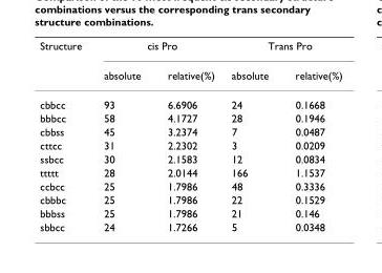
<table><thead><tr><td rowspan="2">Structure</td><td colspan="2">cis Pro</td><td colspan="2">Trans Pro</td></tr><tr><td>absolute</td><td>relative(%)</td><td>absolute</td><td>relative(%)</td></tr></thead><tbody><tr><td>cbbcc</td><td>93</td><td>6.6906</td><td>24</td><td>0.1668</td></tr><tr><td>bbbcc</td><td>58</td><td>4.1727</td><td>28</td><td>0.1946</td></tr><tr><td>cbbss</td><td>45</td><td>3.2374</td><td>7</td><td>0.0487</td></tr><tr><td>cttcc</td><td>31</td><td>2.2302</td><td>3</td><td>0.0209</td></tr><tr><td>ssbcc</td><td>30</td><td>2.1583</td><td>12</td><td>0.0834</td></tr><tr><td>ttttt</td><td>28</td><td>2.0144</td><td>166</td><td>1.1537</td></tr><tr><td>ccbcc</td><td>25</td><td>1.7986</td><td>48</td><td>0.3336</td></tr><tr><td>cbbbc</td><td>25</td><td>1.7986</td><td>22</td><td>0.1529</td></tr><tr><td>bbbss</td><td>25</td><td>1.7986</td><td>21</td><td>0.146</td></tr><tr><td>sbbcc</td><td>24</td><td>1.7266</td><td>5</td><td>0.0348</td></tr></tbody></table>